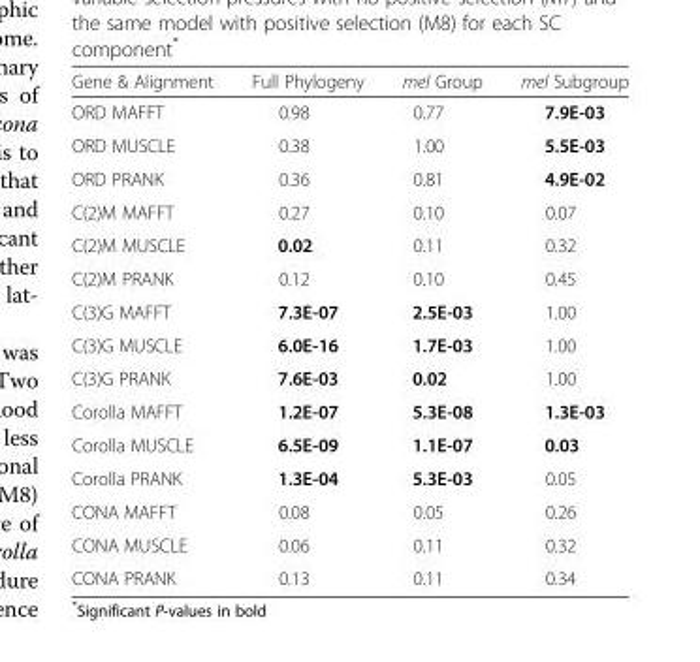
<table><thead><tr><td>Gene &amp; Alignment</td><td>Full Phylogeny</td><td>mel Group</td><td>mel Subgroup</td></tr></thead><tbody><tr><td>ORD MAFFT</td><td>0.98</td><td>0.77</td><td>7.9E-03</td></tr><tr><td>ORD MUSCLE</td><td>0.38</td><td>1.00</td><td>5.5E-03</td></tr><tr><td>ORD PRANK</td><td>0.36</td><td>0.81</td><td>4.9E-02</td></tr><tr><td>C(2)M MAFFT</td><td>0.27</td><td>0.10</td><td>0.07</td></tr><tr><td>C(2)M MUSCLE</td><td>0.02</td><td>0.11</td><td>0.32</td></tr><tr><td>C(2)M PRANK</td><td>0.12</td><td>0.10</td><td>0.45</td></tr><tr><td>C(3)G MAFFT</td><td>7.3E-07</td><td>2.5E-03</td><td>1.00</td></tr><tr><td>C(3)G MUSCLE</td><td>6.0E-16</td><td>1.7E-03</td><td>1.00</td></tr><tr><td>C(3)G PRANK</td><td>7.6E-03</td><td>0.02</td><td>1.00</td></tr><tr><td>Corolla MAFFT</td><td>1.2E-07</td><td>5.3E-08</td><td>1.3E-03</td></tr><tr><td>Corolla MUSCLE</td><td>6.5E-09</td><td>1.1E-07</td><td>0.03</td></tr><tr><td>Corolla PRANK</td><td>1.3E-04</td><td>5.3E-03</td><td>0.05</td></tr><tr><td>CONA MAFFT</td><td>0.08</td><td>0.05</td><td>0.26</td></tr><tr><td>CONA MUSCLE</td><td>0.06</td><td>0.11</td><td>0.32</td></tr><tr><td>CONA PRANK</td><td>0.13</td><td>0.11</td><td>0.34</td></tr></tbody></table>